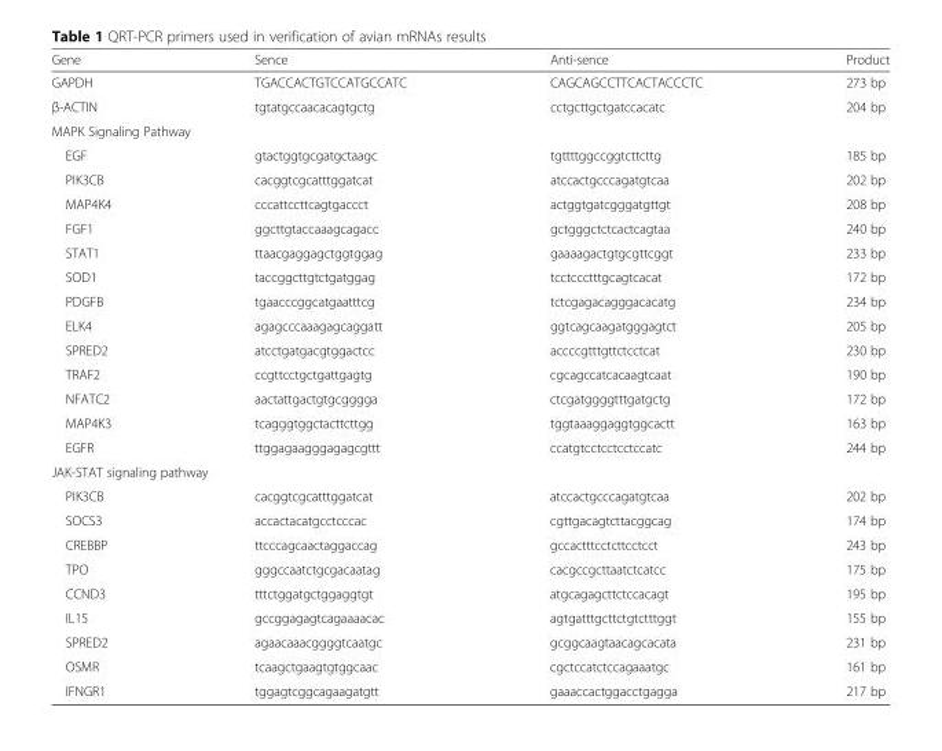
<table><thead><tr><td>Gene</td><td>Sence</td><td>Anti-sence</td><td>Product</td></tr></thead><tbody><tr><td>GAPDH</td><td>TGACCACTGTCCATGCCATC</td><td>CAGCAGCCTTCACTACCCTC</td><td>273 bp</td></tr><tr><td>β-ACTIN</td><td>tgtatgccaacacagtgctg</td><td>cctgcttgctgatccacatc</td><td>204 bp</td></tr><tr><td colspan="4">MAPK Signaling Pathway</td></tr><tr><td>EGF</td><td>gtactggtgcgatgctaagc</td><td>tgttttggccggtcttcttg</td><td>185 bp</td></tr><tr><td>PIK3CB</td><td>cacggtcgcatttggatcat</td><td>atccactgcccagatgtcaa</td><td>202 bp</td></tr><tr><td>MAP4K4</td><td>cccattccttcagtgaccct</td><td>actggtgatcgggatgttgt</td><td>208 bp</td></tr><tr><td>FGF1</td><td>ggcttgtaccaaagcagacc</td><td>gctgggctctcactcagtaa</td><td>240 bp</td></tr><tr><td>STAT1</td><td>ttaacgaggagctggtggag</td><td>gaaaagactgtgcgttcggt</td><td>233 bp</td></tr><tr><td>SOD1</td><td>taccggcttgtctgatggag</td><td>tcctccctttgcagtcacat</td><td>172 bp</td></tr><tr><td>PDGFB</td><td>tgaacccggcatgaatttcg</td><td>tctcgagacagggacacatg</td><td>234 bp</td></tr><tr><td>ELK4</td><td>agagcccaaagagcaggatt</td><td>ggtcagcaagatgggagtct</td><td>205 bp</td></tr><tr><td>SPRED2</td><td>atcctgatgacgtggactcc</td><td>accccgtttgttctcctcat</td><td>230 bp</td></tr><tr><td>TRAF2</td><td>ccgttcctgctgattgagtg</td><td>cgcagccatcacaagtcaat</td><td>190 bp</td></tr><tr><td>NFATC2</td><td>aactattgactgtgcgggga</td><td>ctcgatggggtttgatgctg</td><td>172 bp</td></tr><tr><td>MAP4K3</td><td>tcagggtggctacttcttgg</td><td>tggtaaaggaggtggcactt</td><td>163 bp</td></tr><tr><td>EGFR</td><td>ttggagaagggagagcgttt</td><td>ccatgtcctcctcctccatc</td><td>244 bp</td></tr><tr><td colspan="4">JAK-STAT signaling pathway</td></tr><tr><td>PIK3CB</td><td>cacggtcgcatttggatcat</td><td>atccactgcccagatgtcaa</td><td>202 bp</td></tr><tr><td>SOCS3</td><td>accactacatgcctcccac</td><td>cgttgacagtcttacggcag</td><td>174 bp</td></tr><tr><td>CREBBP</td><td>ttcccagcaactaggaccag</td><td>gccactttcctcttcctcct</td><td>243 bp</td></tr><tr><td>TPO</td><td>gggccaatctgcgacaatag</td><td>cacgccgcttaatctcatcc</td><td>175 bp</td></tr><tr><td>CCND3</td><td>tttctggatgctggaggtgt</td><td>atgcagagcttctccacagt</td><td>195 bp</td></tr><tr><td>IL15</td><td>gccggagagtcagaaaacac</td><td>agtgatttgcttctgtctttggt</td><td>155 bp</td></tr><tr><td>SPRED2</td><td>agaacaaacggggtcaatgc</td><td>gcggcaagtaacagcacata</td><td>231 bp</td></tr><tr><td>OSMR</td><td>tcaagctgaagtgtggcaac</td><td>cgctccatctccagaaatgc</td><td>161 bp</td></tr><tr><td>IFNGR1</td><td>tggagtcggcagaagatgtt</td><td>gaaaccactggacctgagga</td><td>217 bp</td></tr></tbody></table>